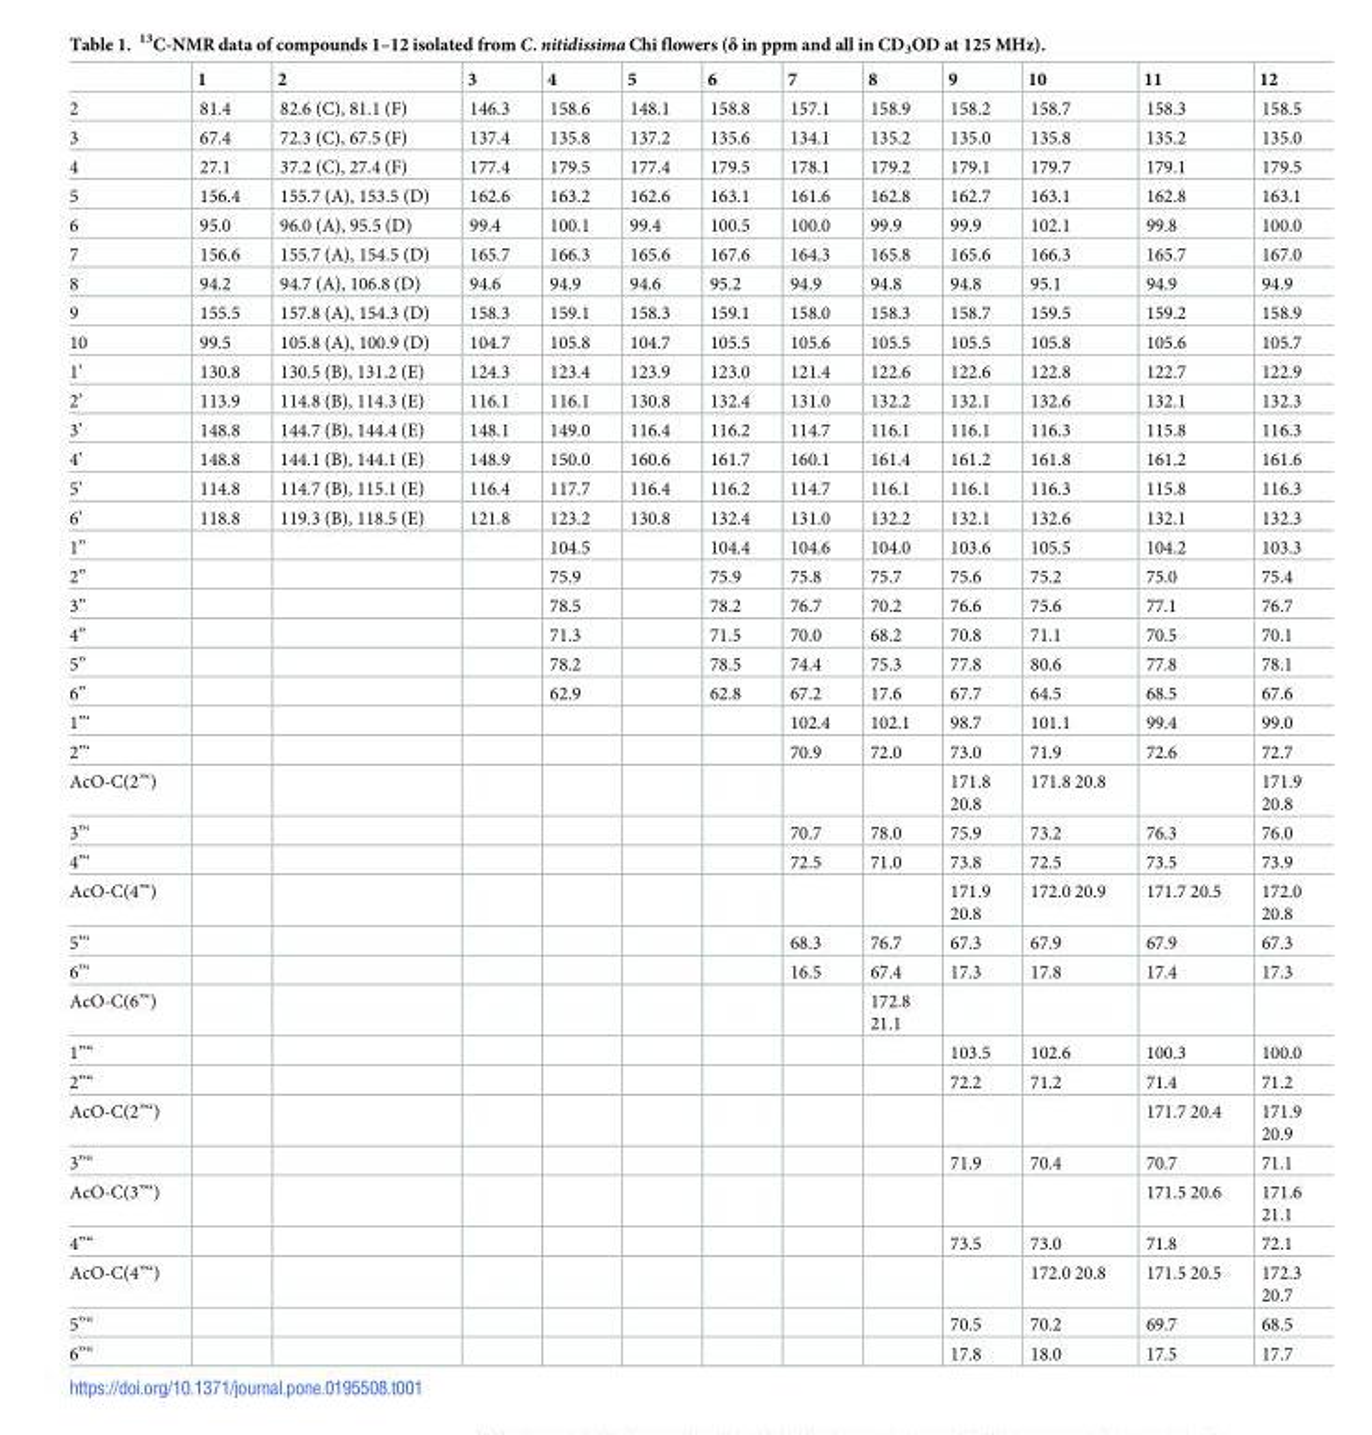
<table><thead><tr><td></td><td>1</td><td>2</td><td>3</td><td>4</td><td>5</td><td>6</td><td>7</td><td>8</td><td>9</td><td>10</td><td>11</td><td>12</td></tr></thead><tbody><tr><td>2</td><td>81.4</td><td>82.6 (C), 81.1 (F)</td><td>146.3</td><td>158.6</td><td>148.1</td><td>158.8</td><td>157.1</td><td>158.9</td><td>158.2</td><td>158.7</td><td>158.3</td><td>158.5</td></tr><tr><td>3</td><td>67.4</td><td>72.3 (C), 67.5 (F)</td><td>137.4</td><td>135.8</td><td>137.2</td><td>135.6</td><td>134.1</td><td>135.2</td><td>135.0</td><td>135.8</td><td>135.2</td><td>135.0</td></tr><tr><td>4</td><td>27.1</td><td>37.2 (C), 27.4 (F)</td><td>177.4</td><td>179.5</td><td>177.4</td><td>179.5</td><td>178.1</td><td>179.2</td><td>179.1</td><td>179.7</td><td>179.1</td><td>179.5</td></tr><tr><td>5</td><td>156.4</td><td>155.7 (A), 153.5 (D)</td><td>162.6</td><td>163.2</td><td>162.6</td><td>163.1</td><td>161.6</td><td>162.8</td><td>162.7</td><td>163.1</td><td>162.8</td><td>163.1</td></tr><tr><td>6</td><td>95.0</td><td>96.0 (A), 95.5 (D)</td><td>99.4</td><td>100.1</td><td>99.4</td><td>100.5</td><td>100.0</td><td>99.9</td><td>99.9</td><td>102.1</td><td>99.8</td><td>100.0</td></tr><tr><td>7</td><td>156.6</td><td>155.7 (A), 154.5 (D)</td><td>165.7</td><td>166.3</td><td>165.6</td><td>167.6</td><td>164.3</td><td>165.8</td><td>165.6</td><td>166.3</td><td>165.7</td><td>167.0</td></tr><tr><td>8</td><td>94.2</td><td>94.7 (A), 106.8 (D)</td><td>94.6</td><td>94.9</td><td>94.6</td><td>95.2</td><td>94.9</td><td>94.8</td><td>94.8</td><td>95.1</td><td>94.9</td><td>94.9</td></tr><tr><td>9</td><td>155.5</td><td>157.8 (A), 154.3 (D)</td><td>158.3</td><td>159.1</td><td>158.3</td><td>159.1</td><td>158.0</td><td>158.3</td><td>158.7</td><td>159.5</td><td>159.2</td><td>158.9</td></tr><tr><td>10</td><td>99.5</td><td>105.8 (A), 100.9 (D)</td><td>104.7</td><td>105.8</td><td>104.7</td><td>105.5</td><td>105.6</td><td>105.5</td><td>105.5</td><td>105.8</td><td>105.6</td><td>105.7</td></tr><tr><td>1’</td><td>130.8</td><td>130.5 (B), 131.2 (E)</td><td>124.3</td><td>123.4</td><td>123.9</td><td>123.0</td><td>121.4</td><td>122.6</td><td>122.6</td><td>122.8</td><td>122.7</td><td>122.9</td></tr><tr><td>2’</td><td>113.9</td><td>114.8 (B), 114.3 (E)</td><td>116.1</td><td>116.1</td><td>130.8</td><td>132.4</td><td>131.0</td><td>132.2</td><td>132.1</td><td>132.6</td><td>132.1</td><td>132.3</td></tr><tr><td>3’</td><td>148.8</td><td>144.7 (B), 144.4 (E)</td><td>148.1</td><td>149.0</td><td>116.4</td><td>116.2</td><td>114.7</td><td>116.1</td><td>116.1</td><td>116.3</td><td>115.8</td><td>116.3</td></tr><tr><td>4’</td><td>148.8</td><td>144.1 (B), 144.1 (E)</td><td>148.9</td><td>150.0</td><td>160.6</td><td>161.7</td><td>160.1</td><td>161.4</td><td>161.2</td><td>161.8</td><td>161.2</td><td>161.6</td></tr><tr><td>5’</td><td>114.8</td><td>114.7 (B), 115.1 (E)</td><td>116.4</td><td>117.7</td><td>116.4</td><td>116.2</td><td>114.7</td><td>116.1</td><td>116.1</td><td>116.3</td><td>115.8</td><td>116.3</td></tr><tr><td>6’</td><td>118.8</td><td>119.3 (B), 118.5 (E)</td><td>121.8</td><td>123.2</td><td>130.8</td><td>132.4</td><td>131.0</td><td>132.2</td><td>132.1</td><td>132.6</td><td>132.1</td><td>132.3</td></tr><tr><td>1”</td><td></td><td></td><td></td><td>104.5</td><td></td><td>104.4</td><td>104.6</td><td>104.0</td><td>103.6</td><td>105.5</td><td>104.2</td><td>103.3</td></tr><tr><td>2”</td><td></td><td></td><td></td><td>75.9</td><td></td><td>75.9</td><td>75.8</td><td>75.7</td><td>75.6</td><td>75.2</td><td>75.0</td><td>75.4</td></tr><tr><td>3”</td><td></td><td></td><td></td><td>78.5</td><td></td><td>78.2</td><td>76.7</td><td>70.2</td><td>76.6</td><td>75.6</td><td>77.1</td><td>76.7</td></tr><tr><td>4”</td><td></td><td></td><td></td><td>71.3</td><td></td><td>71.5</td><td>70.0</td><td>68.2</td><td>70.8</td><td>71.1</td><td>70.5</td><td>70.1</td></tr><tr><td>5”</td><td></td><td></td><td></td><td>78.2</td><td></td><td>78.5</td><td>74.4</td><td>75.3</td><td>77.8</td><td>80.6</td><td>77.8</td><td>78.1</td></tr><tr><td>6”</td><td></td><td></td><td></td><td>62.9</td><td></td><td>62.8</td><td>67.2</td><td>17.6</td><td>67.7</td><td>64.5</td><td>68.5</td><td>67.6</td></tr><tr><td>1”‘</td><td></td><td></td><td></td><td></td><td></td><td></td><td>102.4</td><td>102.1</td><td>98.7</td><td>101.1</td><td>99.4</td><td>99.0</td></tr><tr><td>2”‘</td><td></td><td></td><td></td><td></td><td></td><td></td><td>70.9</td><td>72.0</td><td>73.0</td><td>71.9</td><td>72.6</td><td>72.7</td></tr><tr><td>AcO-C(2”‘)</td><td></td><td></td><td></td><td></td><td></td><td></td><td></td><td></td><td>171.8 20.8</td><td>171.8 20.8</td><td></td><td>171.9 20.8</td></tr><tr><td>3”‘</td><td></td><td></td><td></td><td></td><td></td><td></td><td>70.7</td><td>78.0</td><td>75.9</td><td>73.2</td><td>76.3</td><td>76.0</td></tr><tr><td>4”‘</td><td></td><td></td><td></td><td></td><td></td><td></td><td>72.5</td><td>71.0</td><td>73.8</td><td>72.5</td><td>73.5</td><td>73.9</td></tr><tr><td>AcO-C(4”‘)</td><td></td><td></td><td></td><td></td><td></td><td></td><td></td><td></td><td>171.9 20.8</td><td>172.0 20.9</td><td>171.7 20.5</td><td>172.0 20.8</td></tr><tr><td>5”‘</td><td></td><td></td><td></td><td></td><td></td><td></td><td>68.3</td><td>76.7</td><td>67.3</td><td>67.9</td><td>67.9</td><td>67.3</td></tr><tr><td>6”‘</td><td></td><td></td><td></td><td></td><td></td><td></td><td>16.5</td><td>67.4</td><td>17.3</td><td>17.8</td><td>17.4</td><td>17.3</td></tr><tr><td>AcO-C(6”‘)</td><td></td><td></td><td></td><td></td><td></td><td></td><td></td><td>172.8 21.1</td><td></td><td></td><td></td><td></td></tr><tr><td>1”“</td><td></td><td></td><td></td><td></td><td></td><td></td><td></td><td></td><td>103.5</td><td>102.6</td><td>100.3</td><td>100.0</td></tr><tr><td>2”“</td><td></td><td></td><td></td><td></td><td></td><td></td><td></td><td></td><td>72.2</td><td>71.2</td><td>71.4</td><td>71.2</td></tr><tr><td>AcO-C(2”“)</td><td></td><td></td><td></td><td></td><td></td><td></td><td></td><td></td><td></td><td></td><td>171.7 20.4</td><td>171.9 20.9</td></tr><tr><td>3”“</td><td></td><td></td><td></td><td></td><td></td><td></td><td></td><td></td><td>71.9</td><td>70.4</td><td>70.7</td><td>71.1</td></tr><tr><td>AcO-C(3”“)</td><td></td><td></td><td></td><td></td><td></td><td></td><td></td><td></td><td></td><td></td><td>171.5 20.6</td><td>171.6 21.1</td></tr><tr><td>4”“</td><td></td><td></td><td></td><td></td><td></td><td></td><td></td><td></td><td>73.5</td><td>73.0</td><td>71.8</td><td>72.1</td></tr><tr><td>AcO-C(4”“)</td><td></td><td></td><td></td><td></td><td></td><td></td><td></td><td></td><td></td><td>172.0 20.8</td><td>171.5 20.5</td><td>172.3 20.7</td></tr><tr><td>5”“</td><td></td><td></td><td></td><td></td><td></td><td></td><td></td><td></td><td>70.5</td><td>70.2</td><td>69.7</td><td>68.5</td></tr><tr><td>6”“</td><td></td><td></td><td></td><td></td><td></td><td></td><td></td><td></td><td>17.8</td><td>18.0</td><td>17.5</td><td>17.7</td></tr></tbody></table>